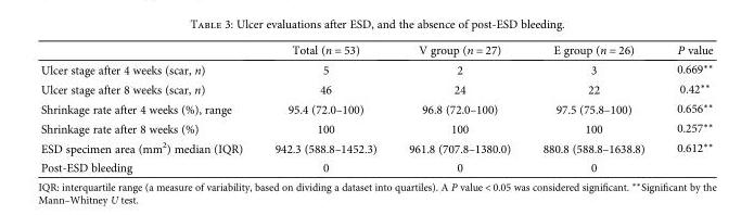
<table><thead><tr><td></td><td>Total (n = 53)</td><td>V group (n = 27)</td><td>E group (n = 26)</td><td>P value</td></tr></thead><tbody><tr><td>Ulcer stage after 4 weeks (scar, n)</td><td>5</td><td>2</td><td>3</td><td>0.669∗∗</td></tr><tr><td>Ulcer stage after 8 weeks (scar, n)</td><td>46</td><td>24</td><td>22</td><td>0.42∗∗</td></tr><tr><td>Shrinkage rate after 4 weeks (%), range</td><td>95.4 (72.0–100)</td><td>96.8 (72.0–100)</td><td>97.5 (75.8–100)</td><td>0.656∗∗</td></tr><tr><td>Shrinkage rate after 8 weeks (%)</td><td>100</td><td>100</td><td>100</td><td>0.257∗∗</td></tr><tr><td>ESD specimen area (mm<sup>2</sup>) median (IQR)</td><td>942.3 (588.8–1452.3)</td><td>961.8 (707.8–1380.0)</td><td>880.8 (588.8–1638.8)</td><td>0.612∗∗</td></tr><tr><td>Post-ESD bleeding</td><td>0</td><td>0</td><td>0</td><td></td></tr></tbody></table>